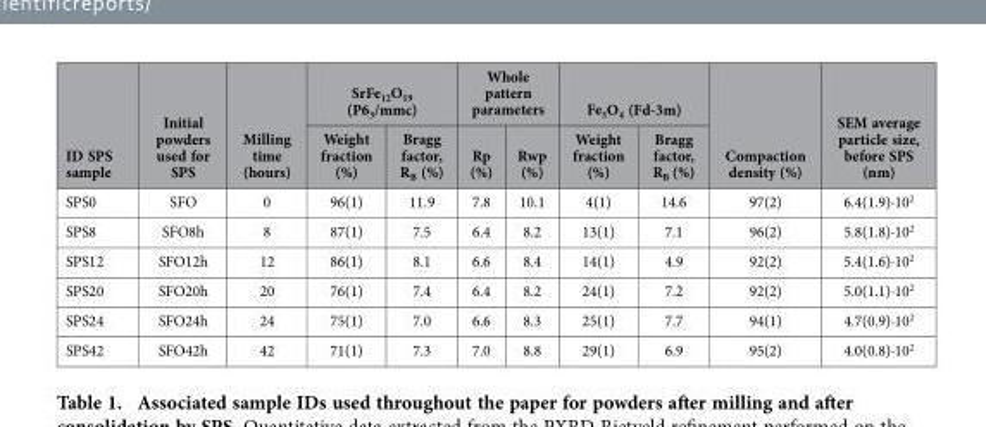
<table><thead><tr><td rowspan="2">ID SPS sample</td><td rowspan="2">Initial powders used for SPS</td><td rowspan="2">Milling time (hours)</td><td colspan="2">SrFe<sub>12</sub>O<sub>19</sub> (P6<sub>3</sub>/mmc)</td><td colspan="2">Whole pattern parameters</td><td colspan="2">Fe<sub>3</sub>O<sub>4</sub> (Fd-3m)</td><td rowspan="2">Compaction density (%)</td><td rowspan="2">SEM average particle size, before SPS (nm)</td></tr><tr><td>Weight fraction (%)</td><td>Bragg factor, R<sub>B</sub> (%)</td><td>Rp (%)</td><td>Rwp (%)</td><td>Weight fraction (%)</td><td>Bragg factor, R<sub>B</sub> (%)</td></tr></thead><tbody><tr><td>SPS0</td><td>SFO</td><td>0</td><td>96(1)</td><td>11.9</td><td>7.8</td><td>10.1</td><td>4(1)</td><td>14.6</td><td>97(2)</td><td>6.4(1.9)·10<sup>2</sup></td></tr><tr><td>SPS8</td><td>SFO8h</td><td>8</td><td>87(1)</td><td>7.5</td><td>6.4</td><td>8.2</td><td>13(1)</td><td>7.1</td><td>96(2)</td><td>5.8(1.8)·10<sup>2</sup></td></tr><tr><td>SPS12</td><td>SFO12h</td><td>12</td><td>86(1)</td><td>8.1</td><td>6.6</td><td>8.4</td><td>14(1)</td><td>4.9</td><td>92(2)</td><td>5.4(1.6)·10<sup>2</sup></td></tr><tr><td>SPS20</td><td>SFO20h</td><td>20</td><td>76(1)</td><td>7.4</td><td>6.4</td><td>8.2</td><td>24(1)</td><td>7.2</td><td>92(2)</td><td>5.0(1.1)·10<sup>2</sup></td></tr><tr><td>SPS24</td><td>SFO24h</td><td>24</td><td>75(1)</td><td>7.0</td><td>6.6</td><td>8.3</td><td>25(1)</td><td>7.7</td><td>94(1)</td><td>4.7(0.9)·10<sup>2</sup></td></tr><tr><td>SPS42</td><td>SFO42h</td><td>42</td><td>71(1)</td><td>7.3</td><td>7.0</td><td>8.8</td><td>29(1)</td><td>6.9</td><td>95(2)</td><td>4.0(0.8)·10<sup>2</sup></td></tr></tbody></table>